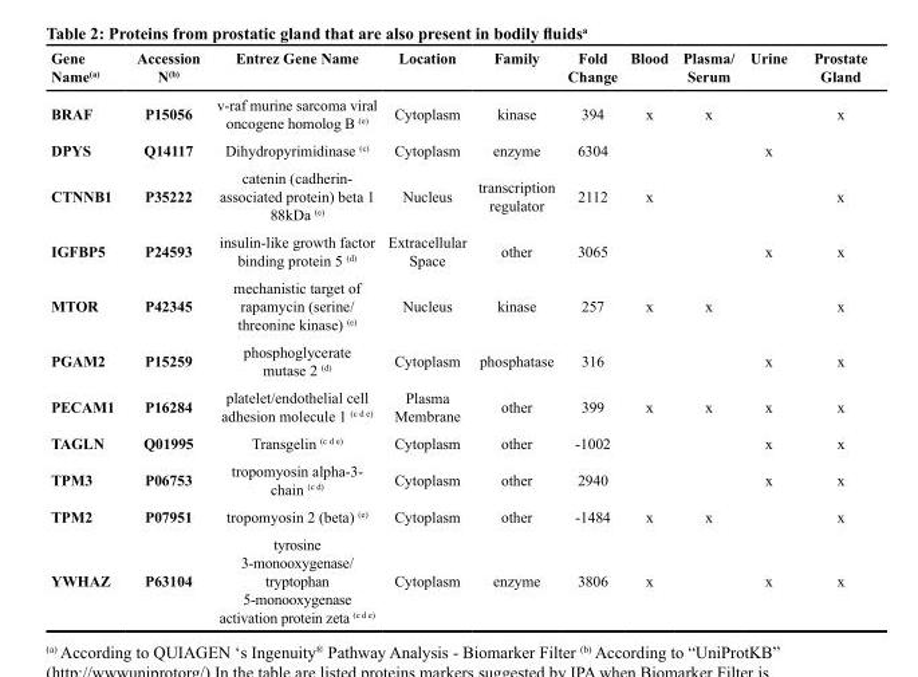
<table><thead><tr><td>Gene Name<sup>(a)</sup></td><td>Accession N<sup>(b)</sup></td><td>Entrez Gene Name</td><td>Location</td><td>Family</td><td>Fold Change</td><td>Blood</td><td>Plasma/ Serum</td><td>Urine</td><td>Prostate Gland</td></tr></thead><tbody><tr><td>BRAF</td><td>P15056</td><td>v-raf murine sarcoma viral oncogene homolog B <sup>(e)</sup></td><td>Cytoplasm</td><td>kinase</td><td>394</td><td>x</td><td>x</td><td></td><td>x</td></tr><tr><td>DPYS</td><td>Q14117</td><td>Dihydropyrimidinase <sup>(c)</sup></td><td>Cytoplasm</td><td>enzyme</td><td>6304</td><td></td><td></td><td>x</td><td></td></tr><tr><td>CTNNB1</td><td>P35222</td><td>catenin (cadherin- associated protein) beta 1 88kDa <sup>(e)</sup></td><td>Nucleus</td><td>transcription regulator</td><td>2112</td><td>x</td><td></td><td></td><td>x</td></tr><tr><td>IGFBP5</td><td>P24593</td><td>insulin-like growth factor binding protein 5 <sup>(d)</sup></td><td>Extracellular Space</td><td>other</td><td>3065</td><td></td><td></td><td>x</td><td>x</td></tr><tr><td>MTOR</td><td>P42345</td><td>mechanistic target of rapamycin (serine/ threonine kinase) <sup>(e)</sup></td><td>Nucleus</td><td>kinase</td><td>257</td><td>x</td><td>x</td><td></td><td>x</td></tr><tr><td>PGAM2</td><td>P15259</td><td>phosphoglycerate mutase 2 <sup>(d)</sup></td><td>Cytoplasm</td><td>phosphatase</td><td>316</td><td></td><td></td><td>x</td><td>x</td></tr><tr><td>PECAM1</td><td>P16284</td><td>platelet/endothelial cell adhesion molecule 1 <sup>(c d e)</sup></td><td>Plasma Membrane</td><td>other</td><td>399</td><td>x</td><td>x</td><td>x</td><td>x</td></tr><tr><td>TAGLN</td><td>Q01995</td><td>Transgelin <sup>(c d e)</sup></td><td>Cytoplasm</td><td>other</td><td>-1002</td><td></td><td></td><td>x</td><td>x</td></tr><tr><td>TPM3</td><td>P06753</td><td>tropomyosin alpha-3- chain <sup>(c d)</sup></td><td>Cytoplasm</td><td>other</td><td>2940</td><td></td><td></td><td>x</td><td>x</td></tr><tr><td>TPM2</td><td>P07951</td><td>tropomyosin 2 (beta) <sup>(e)</sup></td><td>Cytoplasm</td><td>other</td><td>-1484</td><td>x</td><td>x</td><td></td><td>x</td></tr><tr><td>YWHAZ</td><td>P63104</td><td>tyrosine 3-monooxygenase/ tryptophan 5-monooxygenase activation protein zeta (c d e)</td><td>Cytoplasm</td><td>enzyme</td><td>3806</td><td>x</td><td></td><td>x</td><td>x</td></tr></tbody></table>